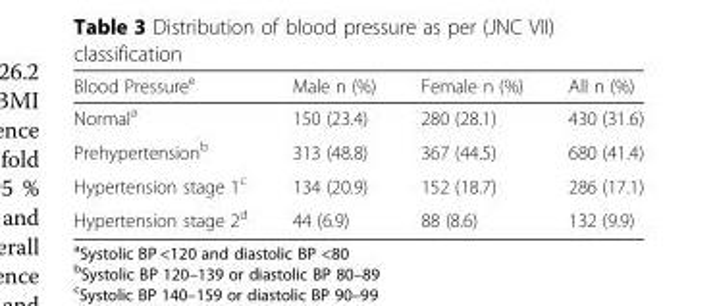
<table><thead><tr><td>Blood Pressure<sup>e</sup></td><td>Male n (%)</td><td>Female n (%)</td><td>All n (%)</td></tr></thead><tbody><tr><td>Normal<sup>a</sup></td><td>150 (23.4)</td><td>280 (28.1)</td><td>430 (31.6)</td></tr><tr><td>Prehypertension<sup>b</sup></td><td>313 (48.8)</td><td>367 (44.5)</td><td>680 (41.4)</td></tr><tr><td>Hypertension stage 1<sup>c</sup></td><td>134 (20.9)</td><td>152 (18.7)</td><td>286 (17.1)</td></tr><tr><td>Hypertension stage 2<sup>d</sup></td><td>44 (6.9)</td><td>88 (8.6)</td><td>132 (9.9)</td></tr></tbody></table>